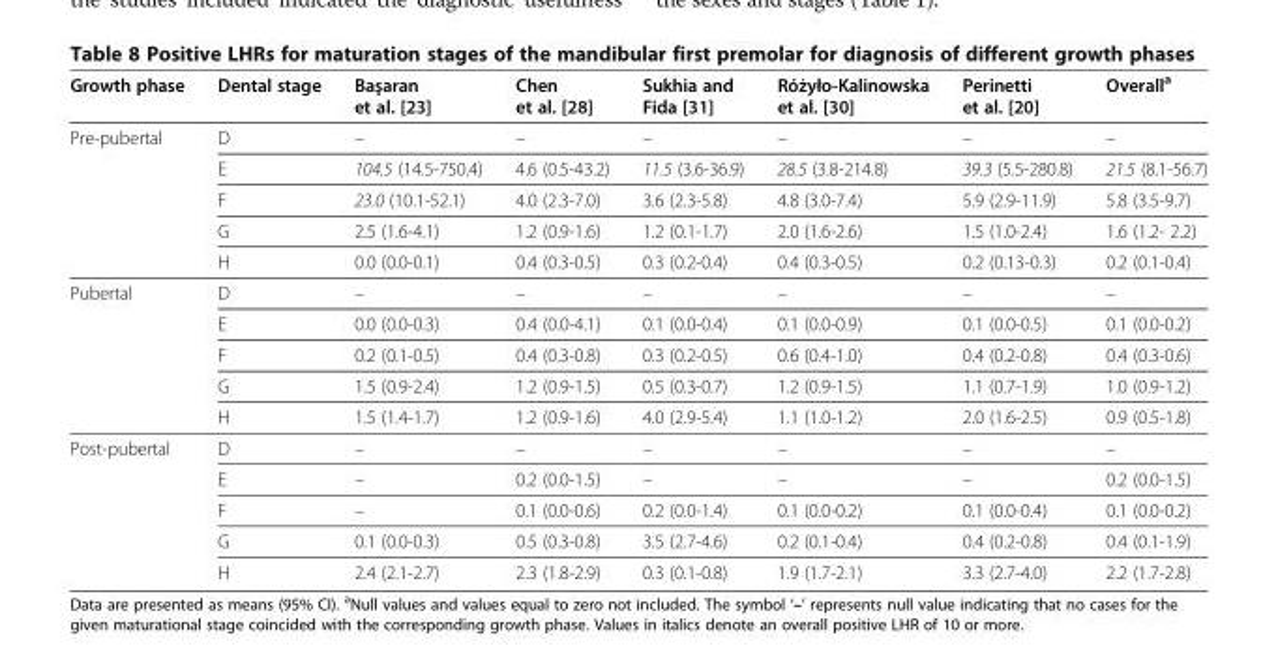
<table><thead><tr><td>Growth phase</td><td>Dental stage</td><td>Başaran et al. [23]</td><td>Chen et al. [28]</td><td>Sukhia and Fida [31]</td><td>Różyło-Kalinowska et al. [30]</td><td>Perinetti et al. [20]</td><td>Overall<sup>a</sup></td></tr></thead><tbody><tr><td rowspan="5">Pre-pubertal</td><td>D</td><td>–</td><td>–</td><td>–</td><td>–</td><td>–</td><td>–</td></tr><tr><td>E</td><td>104.5 (14.5-750.4)</td><td>4.6 (0.5-43.2)</td><td>11.5 (3.6-36.9)</td><td>28.5 (3.8-214.8)</td><td>39.3 (5.5-280.8)</td><td>21.5 (8.1-56.7)</td></tr><tr><td>F</td><td>23.0 (10.1-52.1)</td><td>4.0 (2.3-7.0)</td><td>3.6 (2.3-5.8)</td><td>4.8 (3.0-7.4)</td><td>5.9 (2.9-11.9)</td><td>5.8 (3.5-9.7)</td></tr><tr><td>G</td><td>2.5 (1.6-4.1)</td><td>1.2 (0.9-1.6)</td><td>1.2 (0.1-1.7)</td><td>2.0 (1.6-2.6)</td><td>1.5 (1.0-2.4)</td><td>1.6 (1.2- 2.2)</td></tr><tr><td>H</td><td>0.0 (0.0-0.1)</td><td>0.4 (0.3-0.5)</td><td>0.3 (0.2-0.4)</td><td>0.4 (0.3-0.5)</td><td>0.2 (0.13-0.3)</td><td>0.2 (0.1-0.4)</td></tr><tr><td rowspan="5">Pubertal</td><td>D</td><td>–</td><td>–</td><td>–</td><td>–</td><td>–</td><td>–</td></tr><tr><td>E</td><td>0.0 (0.0-0.3)</td><td>0.4 (0.0-4.1)</td><td>0.1 (0.0-0.4)</td><td>0.1 (0.0-0.9)</td><td>0.1 (0.0-0.5)</td><td>0.1 (0.0-0.2)</td></tr><tr><td>F</td><td>0.2 (0.1-0.5)</td><td>0.4 (0.3-0.8)</td><td>0.3 (0.2-0.5)</td><td>0.6 (0.4-1.0)</td><td>0.4 (0.2-0.8)</td><td>0.4 (0.3-0.6)</td></tr><tr><td>G</td><td>1.5 (0.9-2.4)</td><td>1.2 (0.9-1.5)</td><td>0.5 (0.3-0.7)</td><td>1.2 (0.9-1.5)</td><td>1.1 (0.7-1.9)</td><td>1.0 (0.9-1.2)</td></tr><tr><td>H</td><td>1.5 (1.4-1.7)</td><td>1.2 (0.9-1.6)</td><td>4.0 (2.9-5.4)</td><td>1.1 (1.0-1.2)</td><td>2.0 (1.6-2.5)</td><td>0.9 (0.5-1.8)</td></tr><tr><td rowspan="5">Post-pubertal</td><td>D</td><td>–</td><td>–</td><td>–</td><td>–</td><td>–</td><td>–</td></tr><tr><td>E</td><td>–</td><td>0.2 (0.0-1.5)</td><td>–</td><td>–</td><td>–</td><td>0.2 (0.0-1.5)</td></tr><tr><td>F</td><td>–</td><td>0.1 (0.0-0.6)</td><td>0.2 (0.0-1.4)</td><td>0.1 (0.0-0.2)</td><td>0.1 (0.0-0.4)</td><td>0.1 (0.0-0.2)</td></tr><tr><td>G</td><td>0.1 (0.0-0.3)</td><td>0.5 (0.3-0.8)</td><td>3.5 (2.7-4.6)</td><td>0.2 (0.1-0.4)</td><td>0.4 (0.2-0.8)</td><td>0.4 (0.1-1.9)</td></tr><tr><td>H</td><td>2.4 (2.1-2.7)</td><td>2.3 (1.8-2.9)</td><td>0.3 (0.1-0.8)</td><td>1.9 (1.7-2.1)</td><td>3.3 (2.7-4.0)</td><td>2.2 (1.7-2.8)</td></tr></tbody></table>